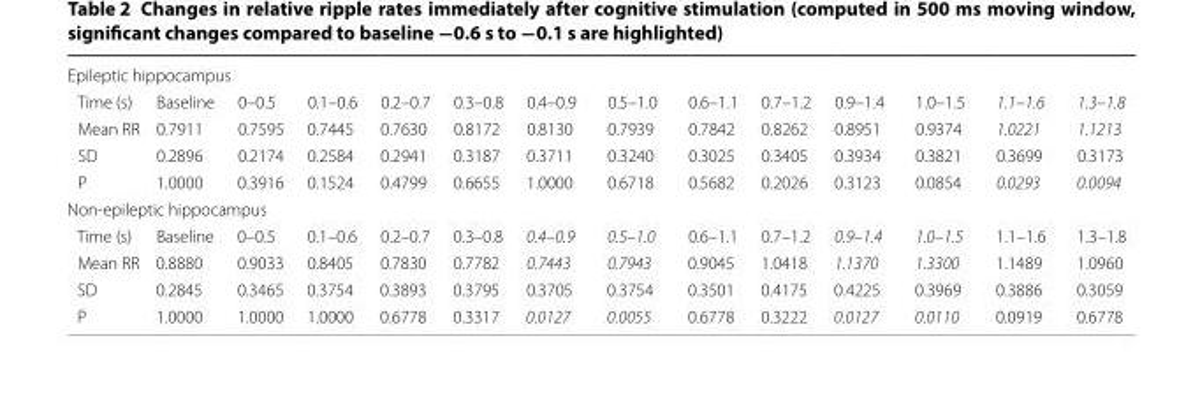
<table><tbody><tr><td colspan="14">Epileptic hippocampus</td></tr><tr><td>Time (s)</td><td>Baseline</td><td>0–0.5</td><td>0.1–0.6</td><td>0.2–0.7</td><td>0.3–0.8</td><td>0.4–0.9</td><td>0.5–1.0</td><td>0.6–1.1</td><td>0.7–1.2</td><td>0.9–1.4</td><td>1.0–1.5</td><td>1.1–1.6</td><td>1.3–1.8</td></tr><tr><td>Mean RR</td><td>0.7911</td><td>0.7595</td><td>0.7445</td><td>0.7630</td><td>0.8172</td><td>0.8130</td><td>0.7939</td><td>0.7842</td><td>0.8262</td><td>0.8951</td><td>0.9374</td><td>1.0221</td><td>1.1213</td></tr><tr><td>SD</td><td>0.2896</td><td>0.2174</td><td>0.2584</td><td>0.2941</td><td>0.3187</td><td>0.3711</td><td>0.3240</td><td>0.3025</td><td>0.3405</td><td>0.3934</td><td>0.3821</td><td>0.3699</td><td>0.3173</td></tr><tr><td>P</td><td>1.0000</td><td>0.3916</td><td>0.1524</td><td>0.4799</td><td>0.6655</td><td>1.0000</td><td>0.6718</td><td>0.5682</td><td>0.2026</td><td>0.3123</td><td>0.0854</td><td>0.0293</td><td>0.0094</td></tr><tr><td colspan="14">Non-epileptic hippocampus</td></tr><tr><td>Time (s)</td><td>Baseline</td><td>0–0.5</td><td>0.1–0.6</td><td>0.2–0.7</td><td>0.3–0.8</td><td>0.4–0.9</td><td>0.5–1.0</td><td>0.6–1.1</td><td>0.7–1.2</td><td>0.9–1.4</td><td>1.0–1.5</td><td>1.1–1.6</td><td>1.3–1.8</td></tr><tr><td>Mean RR</td><td>0.8880</td><td>0.9033</td><td>0.8405</td><td>0.7830</td><td>0.7782</td><td>0.7443</td><td>0.7943</td><td>0.9045</td><td>1.0418</td><td>1.1370</td><td>1.3300</td><td>1.1489</td><td>1.0960</td></tr><tr><td>SD</td><td>0.2845</td><td>0.3465</td><td>0.3754</td><td>0.3893</td><td>0.3795</td><td>0.3705</td><td>0.3754</td><td>0.3501</td><td>0.4175</td><td>0.4225</td><td>0.3969</td><td>0.3886</td><td>0.3059</td></tr><tr><td>P</td><td>1.0000</td><td>1.0000</td><td>1.0000</td><td>0.6778</td><td>0.3317</td><td>0.0127</td><td>0.0055</td><td>0.6778</td><td>0.3222</td><td>0.0127</td><td>0.0110</td><td>0.0919</td><td>0.6778</td></tr></tbody></table>